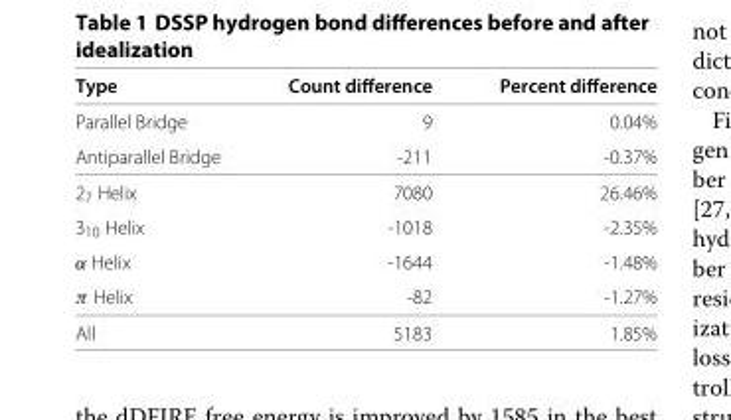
<table><thead><tr><td>Type</td><td>Count difference</td><td>Percent difference</td></tr></thead><tbody><tr><td>Parallel Bridge</td><td>9</td><td>0.04%</td></tr><tr><td>Antiparallel Bridge</td><td>-211</td><td>-0.37%</td></tr><tr><td>2<sub>7</sub> Helix</td><td>7080</td><td>26.46%</td></tr><tr><td>3<sub>10</sub> Helix</td><td>-1018</td><td>-2.35%</td></tr><tr><td>α Helix</td><td>-1644</td><td>-1.48%</td></tr><tr><td>π Helix</td><td>-82</td><td>-1.27%</td></tr><tr><td>All</td><td>5183</td><td>1.85%</td></tr></tbody></table>